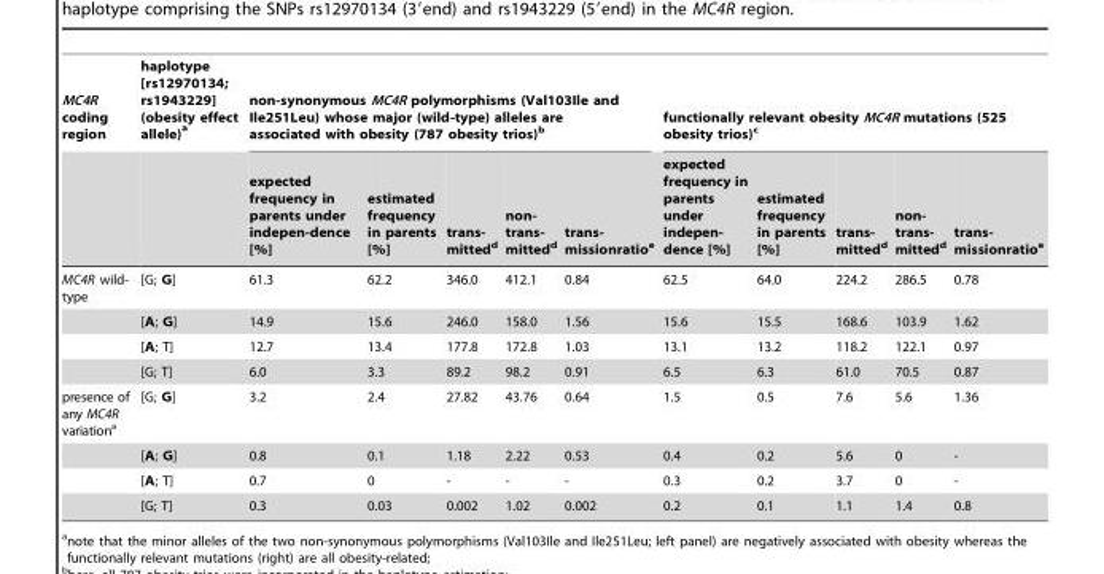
<table><thead><tr><td rowspan="2">MC4R coding region</td><td rowspan="2">haplotype [rs12970134; rs1943229] (obesity effect allele) <sup>a</sup></td><td colspan="5">non-synonymous MC4R polymorphisms (Val103Ile and Ile251Leu) whose major (wild-type) alleles are associated with obesity (787 obesity trios)<sup>b</sup></td><td colspan="5">functionally relevant obesity MC4R mutations (525 obesity trios)<sup>c</sup></td></tr><tr><td>expected frequency in parents under indepen-dence [%]</td><td>estimated frequency in parents [%]</td><td>trans- mitted<sup>d</sup></td><td>non- trans- mitted<sup>d</sup></td><td>trans- missionratio<sup>e</sup></td><td>expected frequency in parents under indepen- dence [%]</td><td>estimated frequency in parents [%]</td><td>trans- mitted<sup>d</sup></td><td>non- trans- mitted<sup>d</sup></td><td>trans- missionratio<sup>e</sup></td></tr></thead><tbody><tr><td rowspan="4">MC4R wild- type</td><td>[G; G]</td><td>61.3</td><td>62.2</td><td>346.0</td><td>412.1</td><td>0.84</td><td>62.5</td><td>64.0</td><td>224.2</td><td>286.5</td><td>0.78</td></tr><tr><td>[A; G]</td><td>14.9</td><td>15.6</td><td>246.0</td><td>158.0</td><td>1.56</td><td>15.6</td><td>15.5</td><td>168.6</td><td>103.9</td><td>1.62</td></tr><tr><td>[A; T]</td><td>12.7</td><td>13.4</td><td>177.8</td><td>172.8</td><td>1.03</td><td>13.1</td><td>13.2</td><td>118.2</td><td>122.1</td><td>0.97</td></tr><tr><td>[G; T]</td><td>6.0</td><td>3.3</td><td>89.2</td><td>98.2</td><td>0.91</td><td>6.5</td><td>6.3</td><td>61.0</td><td>70.5</td><td>0.87</td></tr><tr><td rowspan="4">presence of any MC4R variation<sup>a</sup></td><td>[G; G]</td><td>3.2</td><td>2.4</td><td>27.82</td><td>43.76</td><td>0.64</td><td>1.5</td><td>0.5</td><td>7.6</td><td>5.6</td><td>1.36</td></tr><tr><td>[A; G]</td><td>0.8</td><td>0.1</td><td>1.18</td><td>2.22</td><td>0.53</td><td>0.4</td><td>0.2</td><td>5.6</td><td>0</td><td>-</td></tr><tr><td>[A; T]</td><td>0.7</td><td>0</td><td>-</td><td>-</td><td>-</td><td>0.3</td><td>0.2</td><td>3.7</td><td>0</td><td>-</td></tr><tr><td>[G; T]</td><td>0.3</td><td>0.03</td><td>0.002</td><td>1.02</td><td>0.002</td><td>0.2</td><td>0.1</td><td>1.1</td><td>1.4</td><td>0.8</td></tr></tbody></table>